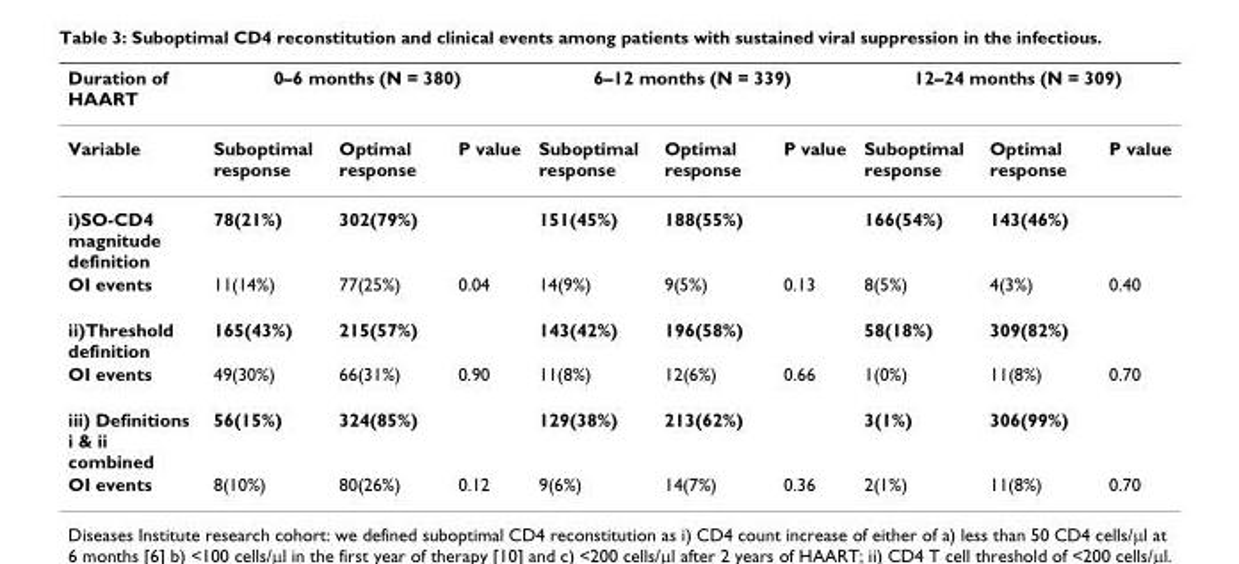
<table><thead><tr><td rowspan="2">Duration of HAART Variable</td><td colspan="3">0–6 months (N = 380)</td><td colspan="3">6–12 months (N = 339)</td><td colspan="3">12–24 months (N = 309)</td></tr><tr><td>Suboptimal response</td><td>Optimal response</td><td>P value</td><td>Suboptimal response</td><td>Optimal response</td><td>P value</td><td>Suboptimal response</td><td>Optimal response</td><td>P value</td></tr></thead><tbody><tr><td>i)SO-CD4 magnitude definition</td><td>78(21%)</td><td>302(79%)</td><td></td><td>151(45%)</td><td>188(55%)</td><td></td><td>166(54%)</td><td>143(46%)</td><td></td></tr><tr><td>OI events</td><td>11(14%)</td><td>77(25%)</td><td>0.04</td><td>14(9%)</td><td>9(5%)</td><td>0.13</td><td>8(5%)</td><td>4(3%)</td><td>0.40</td></tr><tr><td>ii)Threshold definition</td><td>165(43%)</td><td>215(57%)</td><td></td><td>143(42%)</td><td>196(58%)</td><td></td><td>58(18%)</td><td>309(82%)</td><td></td></tr><tr><td>OI events</td><td>49(30%)</td><td>66(31%)</td><td>0.90</td><td>11(8%)</td><td>12(6%)</td><td>0.66</td><td>1(0%)</td><td>11(8%)</td><td>0.70</td></tr><tr><td>iii) Definitions i &amp; ii combined</td><td>56(15%)</td><td>324(85%)</td><td></td><td>129(38%)</td><td>213(62%)</td><td></td><td>3(1%)</td><td>306(99%)</td><td></td></tr><tr><td>OI events</td><td>8(10%)</td><td>80(26%)</td><td>0.12</td><td>9(6%)</td><td>14(7%)</td><td>0.36</td><td>2(1%)</td><td>11(8%)</td><td>0.70</td></tr></tbody></table>